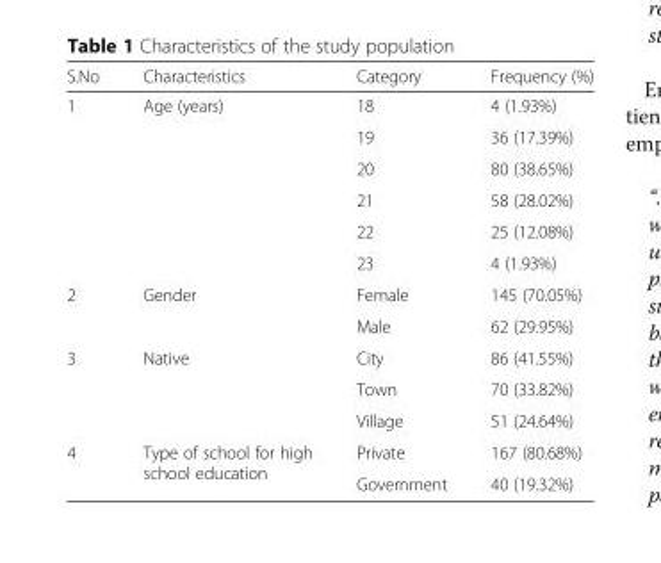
<table><thead><tr><td>S.No</td><td>Characteristics</td><td>Category</td><td>Frequency (%)</td></tr></thead><tbody><tr><td rowspan="6">1</td><td rowspan="6">Age (years)</td><td>18</td><td>4 (1.93%)</td></tr><tr><td>19</td><td>36 (17.39%)</td></tr><tr><td>20</td><td>80 (38.65%)</td></tr><tr><td>21</td><td>58 (28.02%)</td></tr><tr><td>22</td><td>25 (12.08%)</td></tr><tr><td>23</td><td>4 (1.93%)</td></tr><tr><td rowspan="2">2</td><td rowspan="2">Gender</td><td>Female</td><td>145 (70.05%)</td></tr><tr><td>Male</td><td>62 (29.95%)</td></tr><tr><td rowspan="3">3</td><td rowspan="3">Native</td><td>City</td><td>86 (41.55%)</td></tr><tr><td>Town</td><td>70 (33.82%)</td></tr><tr><td>Village</td><td>51 (24.64%)</td></tr><tr><td rowspan="2">4</td><td rowspan="2">Type of school for high school education</td><td>Private</td><td>167 (80.68%)</td></tr><tr><td>Government</td><td>40 (19.32%)</td></tr></tbody></table>